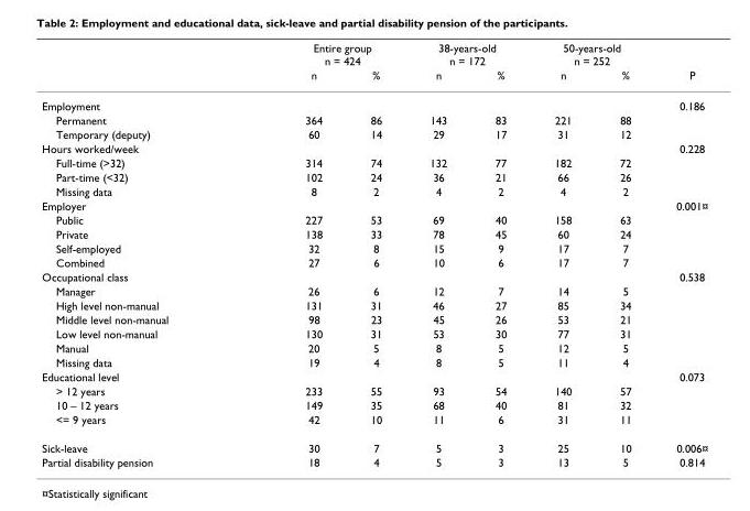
<table><thead><tr><td rowspan="2"></td><td colspan="2">Entire group n = 424</td><td colspan="2">38-years-old n = 172</td><td colspan="2">50-years-old n = 252</td><td rowspan="2">P</td></tr><tr><td>n</td><td>%</td><td>n</td><td>%</td><td>n</td><td>%</td></tr></thead><tbody><tr><td>Employment</td><td></td><td></td><td></td><td></td><td></td><td></td><td>0.186</td></tr><tr><td>Permanent</td><td>364</td><td>86</td><td>143</td><td>83</td><td>221</td><td>88</td><td></td></tr><tr><td>Temporary (deputy)</td><td>60</td><td>14</td><td>29</td><td>17</td><td>31</td><td>12</td><td></td></tr><tr><td>Hours worked/week</td><td></td><td></td><td></td><td></td><td></td><td></td><td>0.228</td></tr><tr><td>Full-time (&gt;32)</td><td>314</td><td>74</td><td>132</td><td>77</td><td>182</td><td>72</td><td></td></tr><tr><td>Part-time (&lt;32)</td><td>102</td><td>24</td><td>36</td><td>21</td><td>66</td><td>26</td><td></td></tr><tr><td>Missing data</td><td>8</td><td>2</td><td>4</td><td>2</td><td>4</td><td>2</td><td></td></tr><tr><td>Employer</td><td></td><td></td><td></td><td></td><td></td><td></td><td>0.001¤</td></tr><tr><td>Public</td><td>227</td><td>53</td><td>69</td><td>40</td><td>158</td><td>63</td><td></td></tr><tr><td>Private</td><td>138</td><td>33</td><td>78</td><td>45</td><td>60</td><td>24</td><td></td></tr><tr><td>Self-employed</td><td>32</td><td>8</td><td>15</td><td>9</td><td>17</td><td>7</td><td></td></tr><tr><td>Combined</td><td>27</td><td>6</td><td>10</td><td>6</td><td>17</td><td>7</td><td></td></tr><tr><td>Occupational class</td><td></td><td></td><td></td><td></td><td></td><td></td><td>0.538</td></tr><tr><td>Manager</td><td>26</td><td>6</td><td>12</td><td>7</td><td>14</td><td>5</td><td></td></tr><tr><td>High level non-manual</td><td>131</td><td>31</td><td>46</td><td>27</td><td>85</td><td>34</td><td></td></tr><tr><td>Middle level non-manual</td><td>98</td><td>23</td><td>45</td><td>26</td><td>53</td><td>21</td><td></td></tr><tr><td>Low level non-manual</td><td>130</td><td>31</td><td>53</td><td>30</td><td>77</td><td>31</td><td></td></tr><tr><td>Manual</td><td>20</td><td>5</td><td>8</td><td>5</td><td>12</td><td>5</td><td></td></tr><tr><td>Missing data</td><td>19</td><td>4</td><td>8</td><td>5</td><td>11</td><td>4</td><td></td></tr><tr><td>Educational level</td><td></td><td></td><td></td><td></td><td></td><td></td><td>0.073</td></tr><tr><td>&gt; 12 years</td><td>233</td><td>55</td><td>93</td><td>54</td><td>140</td><td>57</td><td></td></tr><tr><td>10 – 12 years</td><td>149</td><td>35</td><td>68</td><td>40</td><td>81</td><td>32</td><td></td></tr><tr><td>&lt;= 9 years</td><td>42</td><td>10</td><td>11</td><td>6</td><td>31</td><td>11</td><td></td></tr><tr><td>Sick-leave</td><td>30</td><td>7</td><td>5</td><td>3</td><td>25</td><td>10</td><td>0.006¤</td></tr><tr><td>Partial disability pension</td><td>18</td><td>4</td><td>5</td><td>3</td><td>13</td><td>5</td><td>0.814</td></tr></tbody></table>